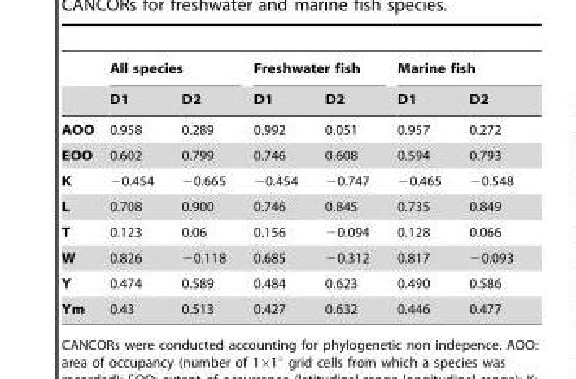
<table><thead><tr><td rowspan="2"></td><td colspan="2">All species</td><td colspan="2">Freshwater fish</td><td colspan="2">Marine fish</td></tr><tr><td>D1</td><td>D2</td><td>D1</td><td>D2</td><td>D1</td><td>D2</td></tr></thead><tbody><tr><td>AOO</td><td>0.958</td><td>0.289</td><td>0.992</td><td>0.051</td><td>0.957</td><td>0.272</td></tr><tr><td>EOO</td><td>0.602</td><td>0.799</td><td>0.746</td><td>0.608</td><td>0.594</td><td>0.793</td></tr><tr><td>K</td><td>−0.454</td><td>−0.665</td><td>−0.454</td><td>−0.747</td><td>−0.465</td><td>−0.548</td></tr><tr><td>L</td><td>0.708</td><td>0.900</td><td>0.746</td><td>0.845</td><td>0.735</td><td>0.849</td></tr><tr><td>T</td><td>0.123</td><td>0.06</td><td>0.156</td><td>−0.094</td><td>0.128</td><td>0.066</td></tr><tr><td>W</td><td>0.826</td><td>−0.118</td><td>0.685</td><td>−0.312</td><td>0.817</td><td>−0.093</td></tr><tr><td>Y</td><td>0.474</td><td>0.589</td><td>0.484</td><td>0.623</td><td>0.490</td><td>0.586</td></tr><tr><td>Ym</td><td>0.43</td><td>0.513</td><td>0.427</td><td>0.632</td><td>0.446</td><td>0.477</td></tr></tbody></table>